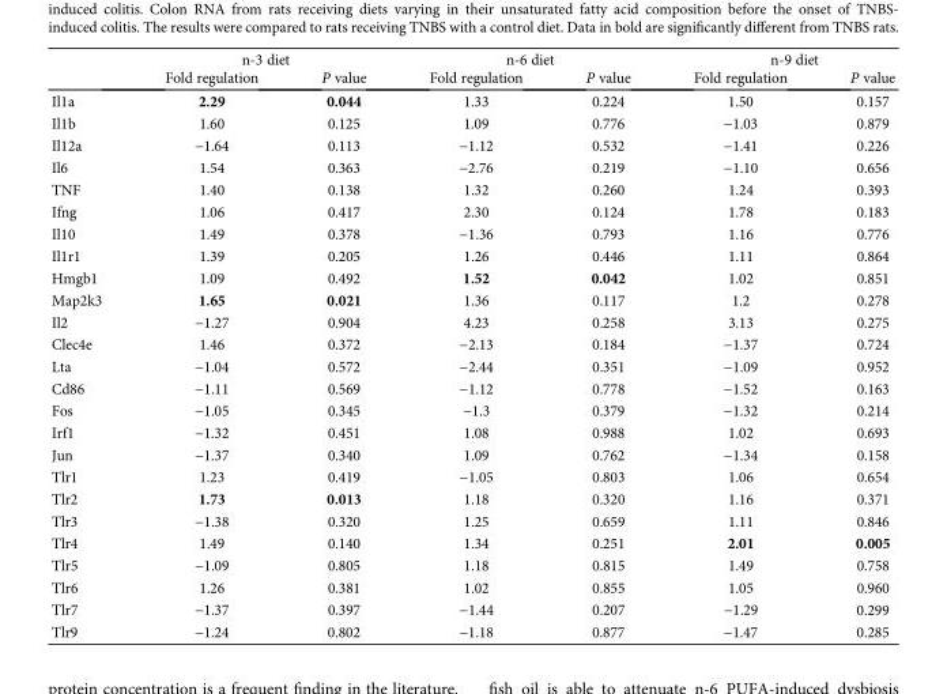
<table><thead><tr><td rowspan="2"></td><td colspan="2">n-3 diet</td><td colspan="2">n-6 diet</td><td colspan="2">n-9 diet</td></tr><tr><td>Fold regulation</td><td>P value</td><td>Fold regulation</td><td>P value</td><td>Fold regulation</td><td>P value</td></tr></thead><tbody><tr><td>Il1a</td><td>2.29</td><td>0.044</td><td>1.33</td><td>0.224</td><td>1.50</td><td>0.157</td></tr><tr><td>Il1b</td><td>1.60</td><td>0.125</td><td>1.09</td><td>0.776</td><td>−1.03</td><td>0.879</td></tr><tr><td>Il12a</td><td>−1.64</td><td>0.113</td><td>−1.12</td><td>0.532</td><td>−1.41</td><td>0.226</td></tr><tr><td>Il6</td><td>1.54</td><td>0.363</td><td>−2.76</td><td>0.219</td><td>−1.10</td><td>0.656</td></tr><tr><td>TNF</td><td>1.40</td><td>0.138</td><td>1.32</td><td>0.260</td><td>1.24</td><td>0.393</td></tr><tr><td>Ifng</td><td>1.06</td><td>0.417</td><td>2.30</td><td>0.124</td><td>1.78</td><td>0.183</td></tr><tr><td>Il10</td><td>1.49</td><td>0.378</td><td>−1.36</td><td>0.793</td><td>1.16</td><td>0.776</td></tr><tr><td>Il1r1</td><td>1.39</td><td>0.205</td><td>1.26</td><td>0.446</td><td>1.11</td><td>0.864</td></tr><tr><td>Hmgb1</td><td>1.09</td><td>0.492</td><td>1.52</td><td>0.042</td><td>1.02</td><td>0.851</td></tr><tr><td>Map2k3</td><td>1.65</td><td>0.021</td><td>1.36</td><td>0.117</td><td>1.2</td><td>0.278</td></tr><tr><td>Il2</td><td>−1.27</td><td>0.904</td><td>4.23</td><td>0.258</td><td>3.13</td><td>0.275</td></tr><tr><td>Clec4e</td><td>1.46</td><td>0.372</td><td>−2.13</td><td>0.184</td><td>−1.37</td><td>0.724</td></tr><tr><td>Lta</td><td>−1.04</td><td>0.572</td><td>−2.44</td><td>0.351</td><td>−1.09</td><td>0.952</td></tr><tr><td>Cd86</td><td>−1.11</td><td>0.569</td><td>−1.12</td><td>0.778</td><td>−1.52</td><td>0.163</td></tr><tr><td>Fos</td><td>−1.05</td><td>0.345</td><td>−1.3</td><td>0.379</td><td>−1.32</td><td>0.214</td></tr><tr><td>Irf1</td><td>−1.32</td><td>0.451</td><td>1.08</td><td>0.988</td><td>1.02</td><td>0.693</td></tr><tr><td>Jun</td><td>−1.37</td><td>0.340</td><td>1.09</td><td>0.762</td><td>−1.34</td><td>0.158</td></tr><tr><td>Tlr1</td><td>1.23</td><td>0.419</td><td>−1.05</td><td>0.803</td><td>1.06</td><td>0.654</td></tr><tr><td>Tlr2</td><td>1.73</td><td>0.013</td><td>1.18</td><td>0.320</td><td>1.16</td><td>0.371</td></tr><tr><td>Tlr3</td><td>−1.38</td><td>0.320</td><td>1.25</td><td>0.659</td><td>1.11</td><td>0.846</td></tr><tr><td>Tlr4</td><td>1.49</td><td>0.140</td><td>1.34</td><td>0.251</td><td>2.01</td><td>0.005</td></tr><tr><td>Tlr5</td><td>−1.09</td><td>0.805</td><td>1.18</td><td>0.815</td><td>1.49</td><td>0.758</td></tr><tr><td>Tlr6</td><td>1.26</td><td>0.381</td><td>1.02</td><td>0.855</td><td>1.05</td><td>0.960</td></tr><tr><td>Tlr7</td><td>−1.37</td><td>0.397</td><td>−1.44</td><td>0.207</td><td>−1.29</td><td>0.299</td></tr><tr><td>Tlr9</td><td>−1.24</td><td>0.802</td><td>−1.18</td><td>0.877</td><td>−1.47</td><td>0.285</td></tr></tbody></table>